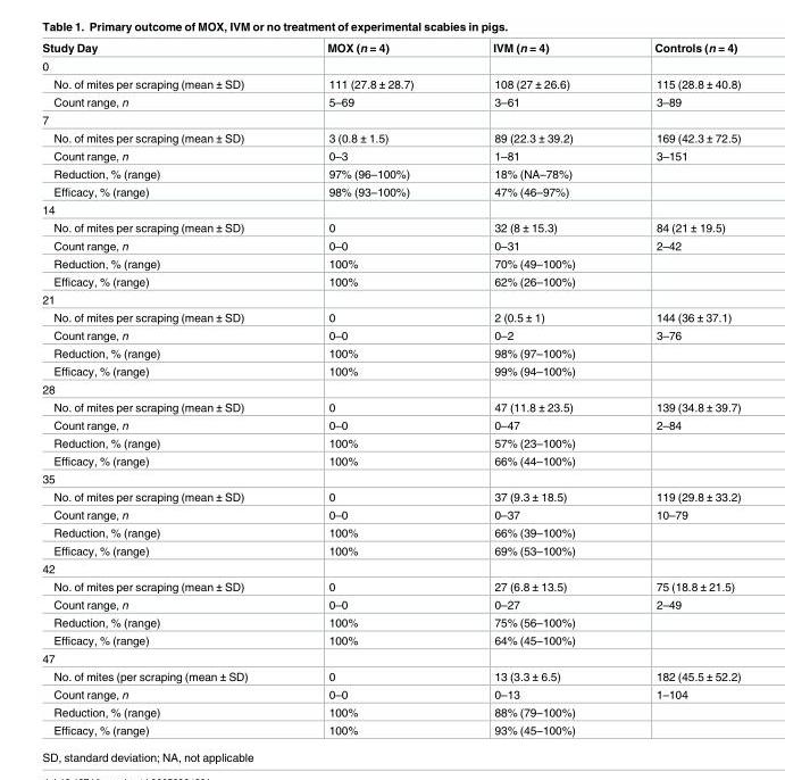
<table><thead><tr><td>Study Day</td><td>MOX (n = 4)</td><td>IVM (n = 4)</td><td>Controls (n = 4)</td></tr></thead><tbody><tr><td colspan="4">0</td></tr><tr><td>No. of mites per scraping (mean ± SD)</td><td>111 (27.8 ± 28.7)</td><td>108 (27 ± 26.6)</td><td>115 (28.8 ± 40.8)</td></tr><tr><td>Count range, n</td><td>5–69</td><td>3–61</td><td>3–89</td></tr><tr><td colspan="4">7</td></tr><tr><td>No. of mites per scraping (mean ± SD)</td><td>3 (0.8 ± 1.5)</td><td>89 (22.3 ± 39.2)</td><td>169 (42.3 ± 72.5)</td></tr><tr><td>Count range, n</td><td>0–3</td><td>1–81</td><td>3–151</td></tr><tr><td>Reduction, % (range)</td><td>97% (96–100%)</td><td>18% (NA–78%)</td><td></td></tr><tr><td>Efficacy, % (range)</td><td>98% (93–100%)</td><td>47% (46–97%)</td><td></td></tr><tr><td colspan="4">14</td></tr><tr><td>No. of mites per scraping (mean ± SD)</td><td>0</td><td>32 (8 ± 15.3)</td><td>84 (21 ± 19.5)</td></tr><tr><td>Count range, n</td><td>0–0</td><td>0–31</td><td>2–42</td></tr><tr><td>Reduction, % (range)</td><td>100%</td><td>70% (49–100%)</td><td></td></tr><tr><td>Efficacy, % (range)</td><td>100%</td><td>62% (26–100%)</td><td></td></tr><tr><td colspan="4">21</td></tr><tr><td>No. of mites per scraping (mean ± SD)</td><td>0</td><td>2 (0.5 ± 1)</td><td>144 (36 ± 37.1)</td></tr><tr><td>Count range, n</td><td>0–0</td><td>0–2</td><td>3–76</td></tr><tr><td>Reduction, % (range)</td><td>100%</td><td>98% (97–100%)</td><td></td></tr><tr><td>Efficacy, % (range)</td><td>100%</td><td>99% (94–100%)</td><td></td></tr><tr><td colspan="4">28</td></tr><tr><td>No. of mites per scraping (mean ± SD)</td><td>0</td><td>47 (11.8 ± 23.5)</td><td>139 (34.8 ± 39.7)</td></tr><tr><td>Count range, n</td><td>0–0</td><td>0–47</td><td>2–84</td></tr><tr><td>Reduction, % (range)</td><td>100%</td><td>57% (23–100%)</td><td></td></tr><tr><td>Efficacy, % (range)</td><td>100%</td><td>66% (44–100%)</td><td></td></tr><tr><td colspan="4">35</td></tr><tr><td>No. of mites per scraping (mean ± SD)</td><td>0</td><td>37 (9.3 ± 18.5)</td><td>119 (29.8 ± 33.2)</td></tr><tr><td>Count range, n</td><td>0–0</td><td>0–37</td><td>10–79</td></tr><tr><td>Reduction, % (range)</td><td>100%</td><td>66% (39–100%)</td><td></td></tr><tr><td>Efficacy, % (range)</td><td>100%</td><td>69% (53–100%)</td><td></td></tr><tr><td colspan="4">42</td></tr><tr><td>No. of mites per scraping (mean ± SD)</td><td>0</td><td>27 (6.8 ± 13.5)</td><td>75 (18.8 ± 21.5)</td></tr><tr><td>Count range, n</td><td>0–0</td><td>0–27</td><td>2–49</td></tr><tr><td>Reduction, % (range)</td><td>100%</td><td>75% (56–100%)</td><td></td></tr><tr><td>Efficacy, % (range)</td><td>100%</td><td>64% (45–100%)</td><td></td></tr><tr><td colspan="4">47</td></tr><tr><td>No. of mites (per scraping (mean ± SD)</td><td>0</td><td>13 (3.3 ± 6.5)</td><td>182 (45.5 ± 52.2)</td></tr><tr><td>Count range, n</td><td>0–0</td><td>0–13</td><td>1–104</td></tr><tr><td>Reduction, % (range)</td><td>100%</td><td>88% (79–100%)</td><td></td></tr><tr><td>Efficacy, % (range)</td><td>100%</td><td>93% (45–100%)</td><td></td></tr></tbody></table>